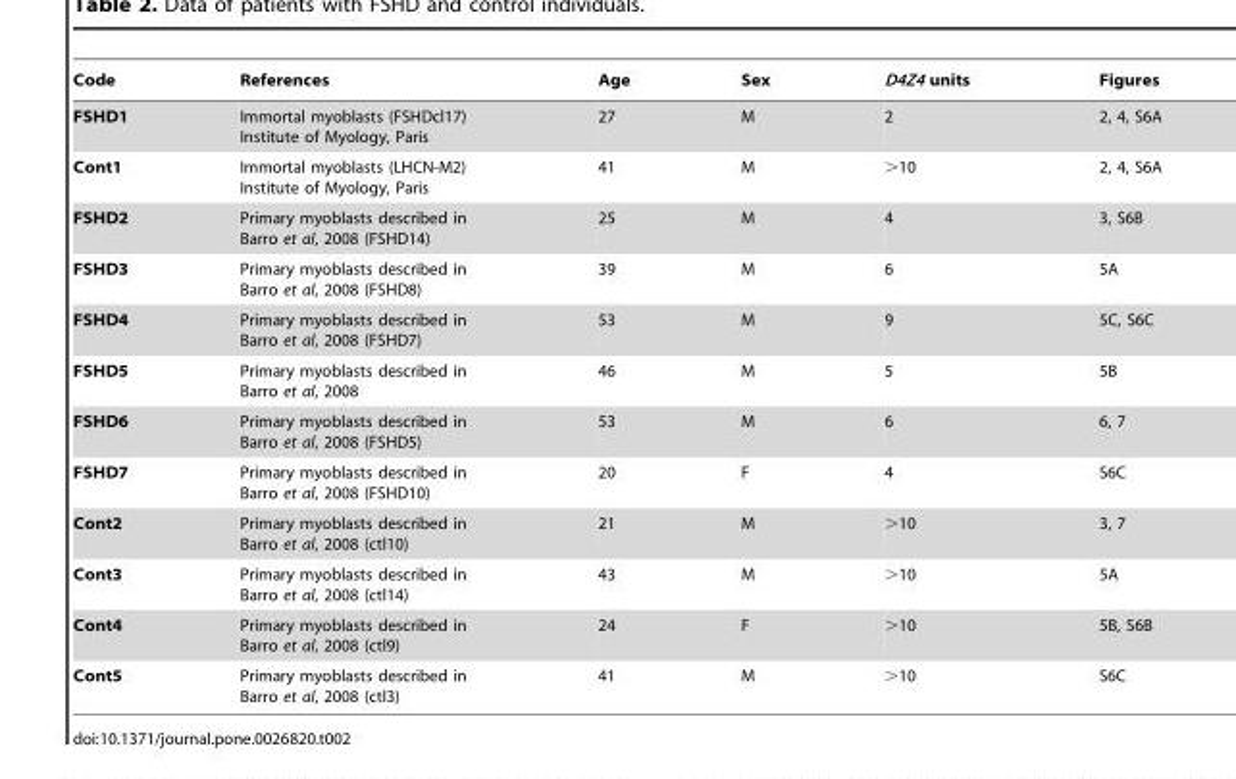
<table><thead><tr><td>Code</td><td>References</td><td>Age</td><td>Sex</td><td>D4Z4 units</td><td>Figures</td></tr></thead><tbody><tr><td>FSHD1</td><td>Immortal myoblasts (FSHDcl17) Institute of Myology, Paris</td><td>27</td><td>M</td><td>2</td><td>2, 4, S6A</td></tr><tr><td>Cont1</td><td>Immortal myoblasts (LHCN-M2) Institute of Myology, Paris</td><td>41</td><td>M</td><td>&gt;10</td><td>2, 4, S6A</td></tr><tr><td>FSHD2</td><td>Primary myoblasts described in Barro et al, 2008 (FSHD14)</td><td>25</td><td>M</td><td>4</td><td>3, S6B</td></tr><tr><td>FSHD3</td><td>Primary myoblasts described in Barro et al, 2008 (FSHD8)</td><td>39</td><td>M</td><td>6</td><td>5A</td></tr><tr><td>FSHD4</td><td>Primary myoblasts described in Barro et al, 2008 (FSHD7)</td><td>53</td><td>M</td><td>9</td><td>5C, S6C</td></tr><tr><td>FSHD5</td><td>Primary myoblasts described in Barro et al, 2008</td><td>46</td><td>M</td><td>5</td><td>5B</td></tr><tr><td>FSHD6</td><td>Primary myoblasts described in Barro et al, 2008 (FSHD5)</td><td>53</td><td>M</td><td>6</td><td>6, 7</td></tr><tr><td>FSHD7</td><td>Primary myoblasts described in Barro et al, 2008 (FSHD10)</td><td>20</td><td>F</td><td>4</td><td>S6C</td></tr><tr><td>Cont2</td><td>Primary myoblasts described in Barro et al, 2008 (ctl10)</td><td>21</td><td>M</td><td>&gt;10</td><td>3, 7</td></tr><tr><td>Cont3</td><td>Primary myoblasts described in Barro et al, 2008 (ctl14)</td><td>43</td><td>M</td><td>&gt;10</td><td>5A</td></tr><tr><td>Cont4</td><td>Primary myoblasts described in Barro et al, 2008 (ctl9)</td><td>24</td><td>F</td><td>&gt;10</td><td>5B, S6B</td></tr><tr><td>Cont5</td><td>Primary myoblasts described in Barro et al, 2008 (ctl3)</td><td>41</td><td>M</td><td>&gt;10</td><td>S6C</td></tr></tbody></table>